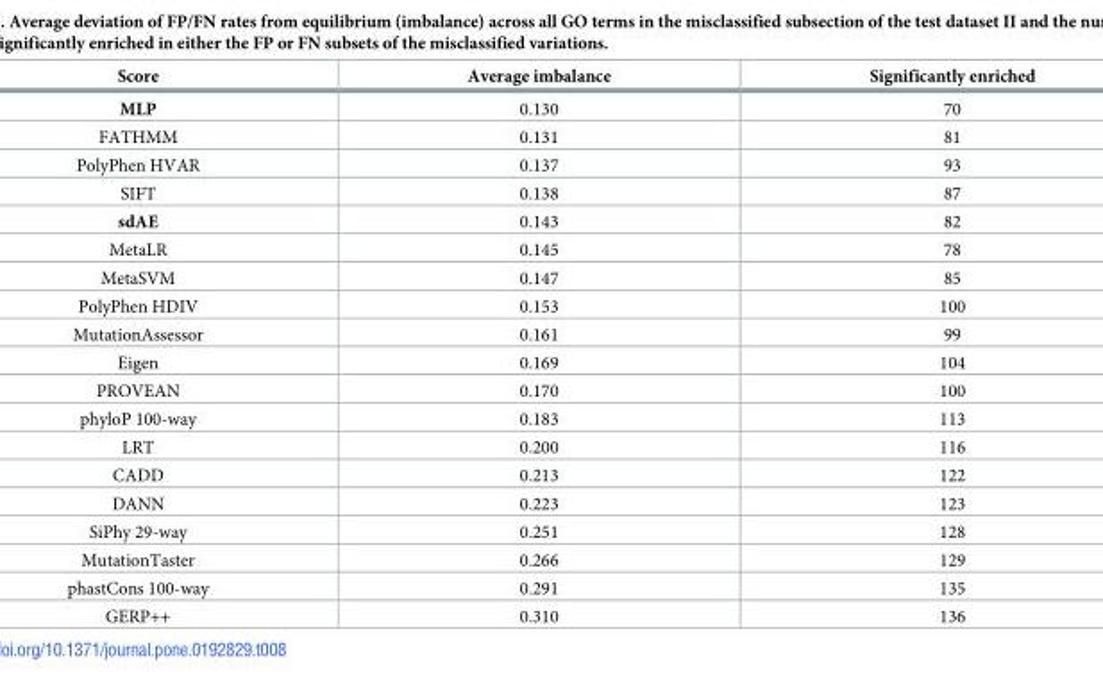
<table><thead><tr><td>Score</td><td>Average imbalance</td><td>Significantly enriched</td></tr></thead><tbody><tr><td>MLP</td><td>0.130</td><td>70</td></tr><tr><td>FATHMM</td><td>0.131</td><td>81</td></tr><tr><td>PolyPhen HVAR</td><td>0.137</td><td>93</td></tr><tr><td>SIFT</td><td>0.138</td><td>87</td></tr><tr><td>sdAE</td><td>0.143</td><td>82</td></tr><tr><td>MetaLR</td><td>0.145</td><td>78</td></tr><tr><td>MetaSVM</td><td>0.147</td><td>85</td></tr><tr><td>PolyPhen HDIV</td><td>0.153</td><td>100</td></tr><tr><td>MutationAssessor</td><td>0.161</td><td>99</td></tr><tr><td>Eigen</td><td>0.169</td><td>104</td></tr><tr><td>PROVEAN</td><td>0.170</td><td>100</td></tr><tr><td>phyloP 100-way</td><td>0.183</td><td>113</td></tr><tr><td>LRT</td><td>0.200</td><td>116</td></tr><tr><td>CADD</td><td>0.213</td><td>122</td></tr><tr><td>DANN</td><td>0.223</td><td>123</td></tr><tr><td>SiPhy 29-way</td><td>0.251</td><td>128</td></tr><tr><td>MutationTaster</td><td>0.266</td><td>129</td></tr><tr><td>phastCons 100-way</td><td>0.291</td><td>135</td></tr><tr><td>GERP++</td><td>0.310</td><td>136</td></tr></tbody></table>